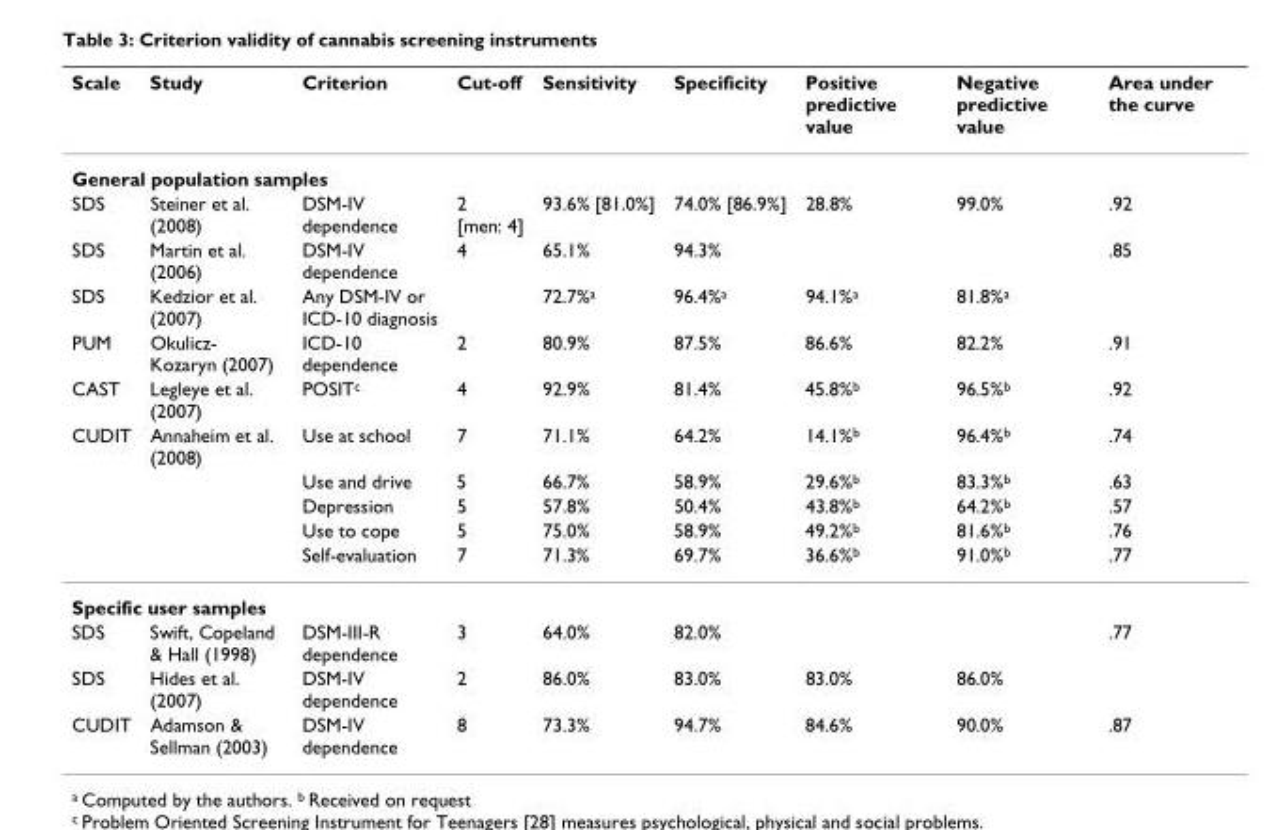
<table><thead><tr><td>Scale</td><td>Study</td><td>Criterion</td><td>Cut-off</td><td>Sensitivity</td><td>Specificity</td><td>Positive predictive value</td><td>Negative predictive value</td><td>Area under the curve</td></tr></thead><tbody><tr><td colspan="9">General population samples</td></tr><tr><td>SDS</td><td>Steiner et al. (2008)</td><td>DSM-IV dependence</td><td>2 [men: 4]</td><td>93.6% [81.0%]</td><td>74.0% [86.9%]</td><td>28.8%</td><td>99.0%</td><td>.92</td></tr><tr><td>SDS</td><td>Martin et al. (2006)</td><td>DSM-IV dependence</td><td>4</td><td>65.1%</td><td>94.3%</td><td></td><td></td><td>.85</td></tr><tr><td>SDS</td><td>Kedzior et al. (2007)</td><td>Any DSM-IV or ICD-10 diagnosis</td><td></td><td>72.7%<sup>a</sup></td><td>96.4%<sup>a</sup></td><td>94.1%<sup>a</sup></td><td>81.8%<sup>a</sup></td><td></td></tr><tr><td>PUM</td><td>Okulicz- Kozaryn (2007)</td><td>ICD-10 dependence</td><td>2</td><td>80.9%</td><td>87.5%</td><td>86.6%</td><td>82.2%</td><td>.91</td></tr><tr><td>CAST</td><td>Legleye et al. (2007)</td><td>POSIT<sup>c</sup></td><td>4</td><td>92.9%</td><td>81.4%</td><td>45.8%<sup>b</sup></td><td>96.5%<sup>b</sup></td><td>.92</td></tr><tr><td rowspan="5">CUDIT</td><td>Annaheim et al. (2008)</td><td>Use at school</td><td>7</td><td>71.1%</td><td>64.2%</td><td>14.1%<sup>b</sup></td><td>96.4%<sup>b</sup></td><td>.74</td></tr><tr><td></td><td>Use and drive</td><td>5</td><td>66.7%</td><td>58.9%</td><td>29.6%<sup>b</sup></td><td>83.3%<sup>b</sup></td><td>.63</td></tr><tr><td></td><td>Depression</td><td>5</td><td>57.8%</td><td>50.4%</td><td>43.8%<sup>b</sup></td><td>64.2%<sup>b</sup></td><td>.57</td></tr><tr><td></td><td>Use to cope</td><td>5</td><td>75.0%</td><td>58.9%</td><td>49.2%<sup>b</sup></td><td>81.6%<sup>b</sup></td><td>.76</td></tr><tr><td></td><td>Self-evaluation</td><td>7</td><td>71.3%</td><td>69.7%</td><td>36.6%<sup>b</sup></td><td>91.0%<sup>b</sup></td><td>.77</td></tr><tr><td colspan="9">Specific user samples</td></tr><tr><td>SDS</td><td>Swift, Copeland &amp; Hall (1998)</td><td>DSM-III-R dependence</td><td>3</td><td>64.0%</td><td>82.0%</td><td></td><td></td><td>.77</td></tr><tr><td>SDS</td><td>Hides et al. (2007)</td><td>DSM-IV dependence</td><td>2</td><td>86.0%</td><td>83.0%</td><td>83.0%</td><td>86.0%</td><td></td></tr><tr><td>CUDIT</td><td>Adamson &amp; Sellman (2003)</td><td>DSM-IV dependence</td><td>8</td><td>73.3%</td><td>94.7%</td><td>84.6%</td><td>90.0%</td><td>.87</td></tr></tbody></table>